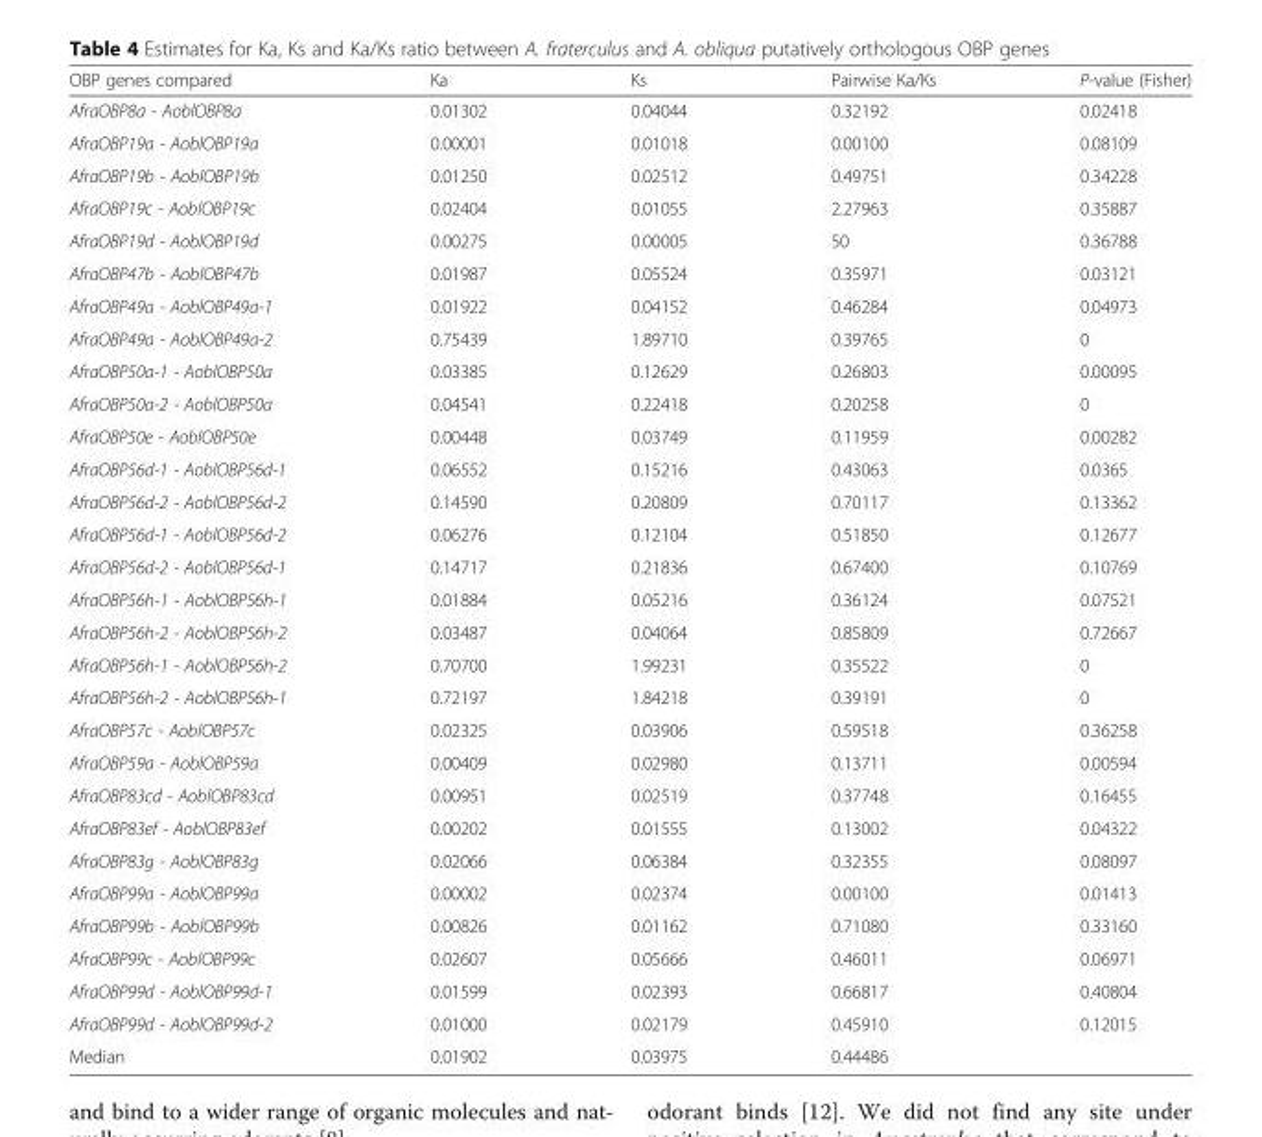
<table><thead><tr><td>OBP genes compared</td><td>Ka</td><td>Ks</td><td>Pairwise Ka/Ks</td><td>P-value (Fisher)</td></tr></thead><tbody><tr><td>AfraOBP8a - AoblOBP8a</td><td>0.01302</td><td>0.04044</td><td>0.32192</td><td>0.02418</td></tr><tr><td>AfraOBP19a - AoblOBP19a</td><td>0.00001</td><td>0.01018</td><td>0.00100</td><td>0.08109</td></tr><tr><td>AfraOBP19b - AoblOBP19b</td><td>0.01250</td><td>0.02512</td><td>0.49751</td><td>0.34228</td></tr><tr><td>AfraOBP19c - AoblOBP19c</td><td>0.02404</td><td>0.01055</td><td>2.27963</td><td>0.35887</td></tr><tr><td>AfraOBP19d - AoblOBP19d</td><td>0.00275</td><td>0.00005</td><td>50</td><td>0.36788</td></tr><tr><td>AfraOBP47b - AoblOBP47b</td><td>0.01987</td><td>0.05524</td><td>0.35971</td><td>0.03121</td></tr><tr><td>AfraOBP49a - AoblOBP49a-1</td><td>0.01922</td><td>0.04152</td><td>0.46284</td><td>0.04973</td></tr><tr><td>AfraOBP49a - AoblOBP49a-2</td><td>0.75439</td><td>1.89710</td><td>0.39765</td><td>0</td></tr><tr><td>AfraOBP50a-1 - AoblOBP50a</td><td>0.03385</td><td>0.12629</td><td>0.26803</td><td>0.00095</td></tr><tr><td>AfraOBP50a-2 - AoblOBP50a</td><td>0.04541</td><td>0.22418</td><td>0.20258</td><td>0</td></tr><tr><td>AfraOBP50e - AoblOBP50e</td><td>0.00448</td><td>0.03749</td><td>0.11959</td><td>0.00282</td></tr><tr><td>AfraOBP56d-1 - AoblOBP56d-1</td><td>0.06552</td><td>0.15216</td><td>0.43063</td><td>0.0365</td></tr><tr><td>AfraOBP56d-2 - AoblOBP56d-2</td><td>0.14590</td><td>0.20809</td><td>0.70117</td><td>0.13362</td></tr><tr><td>AfraOBP56d-1 - AoblOBP56d-2</td><td>0.06276</td><td>0.12104</td><td>0.51850</td><td>0.12677</td></tr><tr><td>AfraOBP56d-2 - AoblOBP56d-1</td><td>0.14717</td><td>0.21836</td><td>0.67400</td><td>0.10769</td></tr><tr><td>AfraOBP56h-1 - AoblOBP56h-1</td><td>0.01884</td><td>0.05216</td><td>0.36124</td><td>0.07521</td></tr><tr><td>AfraOBP56h-2 - AoblOBP56h-2</td><td>0.03487</td><td>0.04064</td><td>0.85809</td><td>0.72667</td></tr><tr><td>AfraOBP56h-1 - AoblOBP56h-2</td><td>0.70700</td><td>1.99231</td><td>0.35522</td><td>0</td></tr><tr><td>AfraOBP56h-2 - AoblOBP56h-1</td><td>0.72197</td><td>1.84218</td><td>0.39191</td><td>0</td></tr><tr><td>AfraOBP57c - AoblOBP57c</td><td>0.02325</td><td>0.03906</td><td>0.59518</td><td>0.36258</td></tr><tr><td>AfraOBP59a - AoblOBP59a</td><td>0.00409</td><td>0.02980</td><td>0.13711</td><td>0.00594</td></tr><tr><td>AfraOBP83cd - AoblOBP83cd</td><td>0.00951</td><td>0.02519</td><td>0.37748</td><td>0.16455</td></tr><tr><td>AfraOBP83ef - AoblOBP83ef</td><td>0.00202</td><td>0.01555</td><td>0.13002</td><td>0.04322</td></tr><tr><td>AfraOBP83g - AoblOBP83g</td><td>0.02066</td><td>0.06384</td><td>0.32355</td><td>0.08097</td></tr><tr><td>AfraOBP99a - AoblOBP99a</td><td>0.00002</td><td>0.02374</td><td>0.00100</td><td>0.01413</td></tr><tr><td>AfraOBP99b - AoblOBP99b</td><td>0.00826</td><td>0.01162</td><td>0.71080</td><td>0.33160</td></tr><tr><td>AfraOBP99c - AoblOBP99c</td><td>0.02607</td><td>0.05666</td><td>0.46011</td><td>0.06971</td></tr><tr><td>AfraOBP99d - AoblOBP99d-1</td><td>0.01599</td><td>0.02393</td><td>0.66817</td><td>0.40804</td></tr><tr><td>AfraOBP99d - AoblOBP99d-2</td><td>0.01000</td><td>0.02179</td><td>0.45910</td><td>0.12015</td></tr><tr><td>Median</td><td>0.01902</td><td>0.03975</td><td>0.44486</td><td></td></tr></tbody></table>